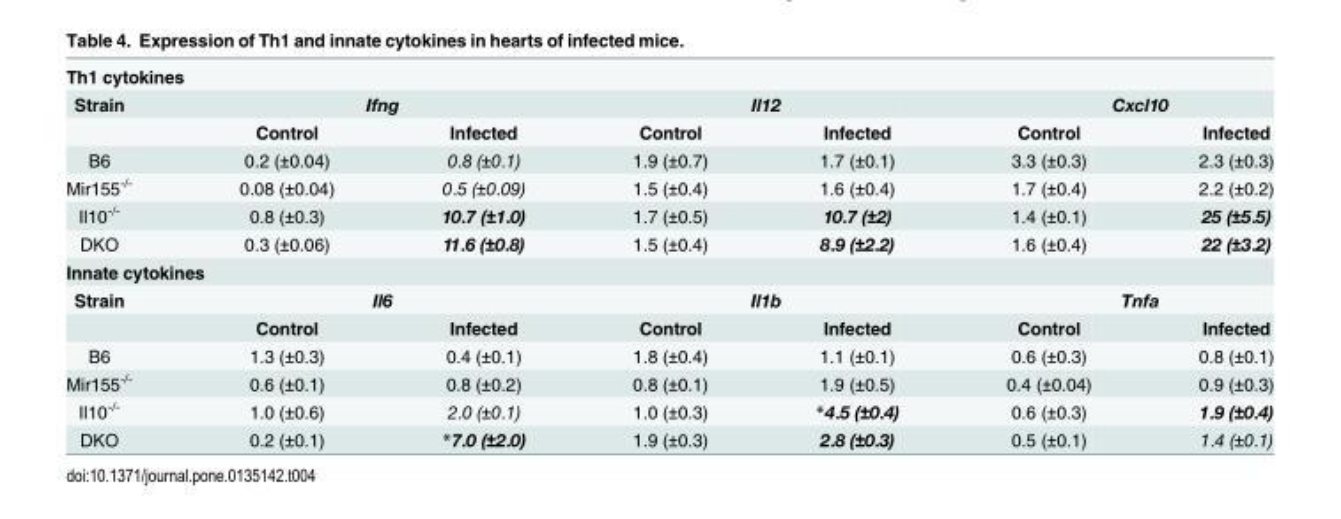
<table><tbody><tr><td colspan="7">Th1 cytokines</td></tr><tr><td rowspan="2">Strain</td><td colspan="2">Ifng</td><td colspan="2">Il12</td><td colspan="2">Cxcl10</td></tr><tr><td>Control</td><td>Infected</td><td>Control</td><td>Infected</td><td>Control</td><td>Infected</td></tr><tr><td>B6</td><td>0.2 (±0.04)</td><td>0.8 (±0.1)</td><td>1.9 (±0.7)</td><td>1.7 (±0.1)</td><td>3.3 (±0.3)</td><td>2.3 (±0.3)</td></tr><tr><td>Mir155<sup>-/-</sup></td><td>0.08 (±0.04)</td><td>0.5 (±0.09)</td><td>1.5 (±0.4)</td><td>1.6 (±0.4)</td><td>1.7 (±0.4)</td><td>2.2 (±0.2)</td></tr><tr><td>Il10<sup>-/-</sup></td><td>0.8 (±0.3)</td><td>10.7 (±1.0)</td><td>1.7 (±0.5)</td><td>10.7 (±2)</td><td>1.4 (±0.1)</td><td>25 (±5.5)</td></tr><tr><td>DKO</td><td>0.3 (±0.06)</td><td>11.6 (±0.8)</td><td>1.5 (±0.4)</td><td>8.9 (±2.2)</td><td>1.6 (±0.4)</td><td>22 (±3.2)</td></tr><tr><td colspan="7">Innate cytokines</td></tr><tr><td rowspan="2">Strain</td><td colspan="2">Il6</td><td colspan="2">Il1b</td><td colspan="2">Tnfa</td></tr><tr><td>Control</td><td>Infected</td><td>Control</td><td>Infected</td><td>Control</td><td>Infected</td></tr><tr><td>B6</td><td>1.3 (±0.3)</td><td>0.4 (±0.1)</td><td>1.8 (±0.4)</td><td>1.1 (±0.1)</td><td>0.6 (±0.3)</td><td>0.8 (±0.1)</td></tr><tr><td>Mir155<sup>-/-</sup></td><td>0.6 (±0.1)</td><td>0.8 (±0.2)</td><td>0.8 (±0.1)</td><td>1.9 (±0.5)</td><td>0.4 (±0.04)</td><td>0.9 (±0.3)</td></tr><tr><td>Il10<sup>-/-</sup></td><td>1.0 (±0.6)</td><td>2.0 (±0.1)</td><td>1.0 (±0.3)</td><td>*4.5 (±0.4)</td><td>0.6 (±0.3)</td><td>1.9 (±0.4)</td></tr><tr><td>DKO</td><td>0.2 (±0.1)</td><td>*7.0 (±2.0)</td><td>1.9 (±0.3)</td><td>2.8 (±0.3)</td><td>0.5 (±0.1)</td><td>1.4 (±0.1)</td></tr></tbody></table>